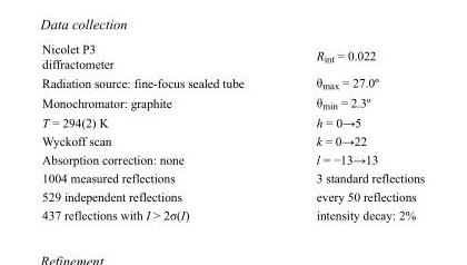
<table><tbody><tr><td>Nicolet P3 diffractometer</td><td>R<sub>int</sub> = 0.022</td></tr><tr><td>Radiation source: fine-focus sealed tube</td><td>θ<sub>max</sub> = 27.0º</td></tr><tr><td>Monochromator: graphite</td><td>θ<sub>min</sub> = 2.3º</td></tr><tr><td>T = 294(2) K</td><td>h = 0→5</td></tr><tr><td>Wyckoff scan</td><td>k = 0→22</td></tr><tr><td>Absorption correction: none</td><td>l = −13→13</td></tr><tr><td>1004 measured reflections</td><td>3 standard reflections</td></tr><tr><td>529 independent reflections</td><td>every 50 reflections</td></tr><tr><td>437 reflections with I &gt; 2σ(I)</td><td>intensity decay: 2%</td></tr></tbody></table>